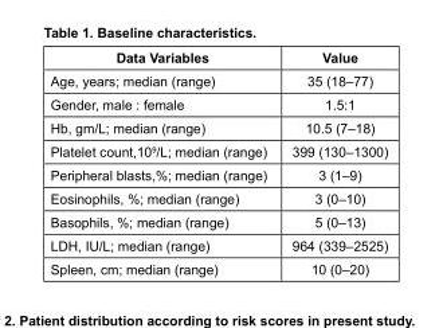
<table><thead><tr><td>Data Variables</td><td>Value</td></tr></thead><tbody><tr><td>Age, years; median (range)</td><td>35 (18–77)</td></tr><tr><td>Gender, male : female</td><td>1.5:1</td></tr><tr><td>Hb, gm/L; median (range)</td><td>10.5 (7–18)</td></tr><tr><td>Platelet count,10<sup>9</sup>/L; median (range)</td><td>399 (130–1300)</td></tr><tr><td>Peripheral blasts,%; median (range)</td><td>3 (1–9)</td></tr><tr><td>Eosinophils, %; median (range)</td><td>3 (0–10)</td></tr><tr><td>Basophils, %; median (range)</td><td>5 (0–13)</td></tr><tr><td>LDH, IU/L; median (range)</td><td>964 (339–2525)</td></tr><tr><td>Spleen, cm; median (range)</td><td>10 (0–20)</td></tr></tbody></table>